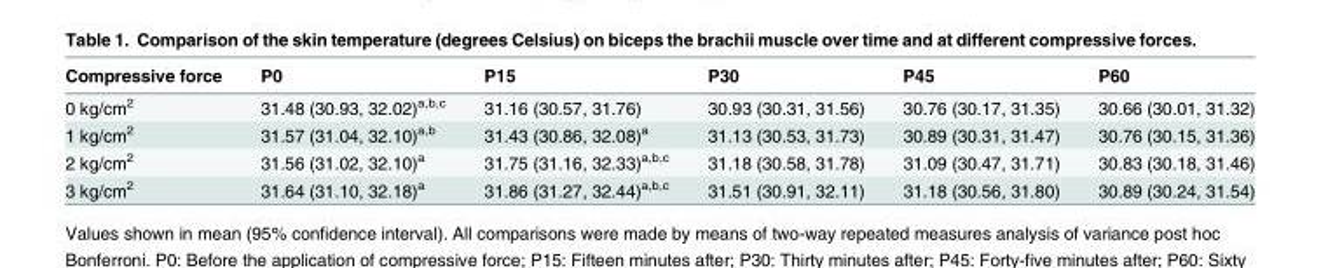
<table><thead><tr><td>Compressive force</td><td>P0</td><td>P15</td><td>P30</td><td>P45</td><td>P60</td></tr></thead><tbody><tr><td>0 kg/cm<sup>2</sup></td><td>31.48 (30.93, 32.02)<sup>a,b,c</sup></td><td>31.16 (30.57, 31.76)</td><td>30.93 (30.31, 31.56)</td><td>30.76 (30.17, 31.35)</td><td>30.66 (30.01, 31.32)</td></tr><tr><td>1 kg/cm<sup>2</sup></td><td>31.57 (31.04, 32.10)<sup>a,b</sup></td><td>31.43 (30.86, 32.08)<sup>a</sup></td><td>31.13 (30.53, 31.73)</td><td>30.89 (30.31, 31.47)</td><td>30.76 (30.15, 31.36)</td></tr><tr><td>2 kg/cm<sup>2</sup></td><td>31.56 (31.02, 32.10)<sup>a</sup></td><td>31.75 (31.16, 32.33)<sup>a,b,c</sup></td><td>31.18 (30.58, 31.78)</td><td>31.09 (30.47, 31.71)</td><td>30.83 (30.18, 31.46)</td></tr><tr><td>3 kg/cm<sup>2</sup></td><td>31.64 (31.10, 32.18)<sup>a</sup></td><td>31.86 (31.27, 32.44)<sup>a,b,c</sup></td><td>31.51 (30.91, 32.11)</td><td>31.18 (30.56, 31.80)</td><td>30.89 (30.24, 31.54)</td></tr></tbody></table>